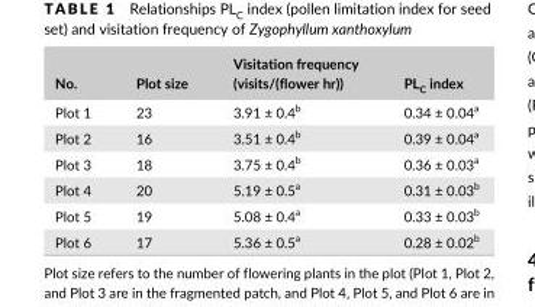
<table><thead><tr><td>No.</td><td>Plot size</td><td>Visitation frequency (visits/(flower hr))</td><td>PL<sub>C</sub> index</td></tr></thead><tbody><tr><td>Plot 1</td><td>23</td><td>3.91 ± 0.4<sup>b</sup></td><td>0.34 ± 0.04<sup>a</sup></td></tr><tr><td>Plot 2</td><td>16</td><td>3.51 ± 0.4<sup>b</sup></td><td>0.39 ± 0.04<sup>a</sup></td></tr><tr><td>Plot 3</td><td>18</td><td>3.75 ± 0.4<sup>b</sup></td><td>0.36 ± 0.03<sup>a</sup></td></tr><tr><td>Plot 4</td><td>20</td><td>5.19 ± 0.5<sup>a</sup></td><td>0.31 ± 0.03<sup>b</sup></td></tr><tr><td>Plot 5</td><td>19</td><td>5.08 ± 0.4<sup>a</sup></td><td>0.33 ± 0.03<sup>b</sup></td></tr><tr><td>Plot 6</td><td>17</td><td>5.36 ± 0.5<sup>a</sup></td><td>0.28 ± 0.02<sup>b</sup></td></tr></tbody></table>